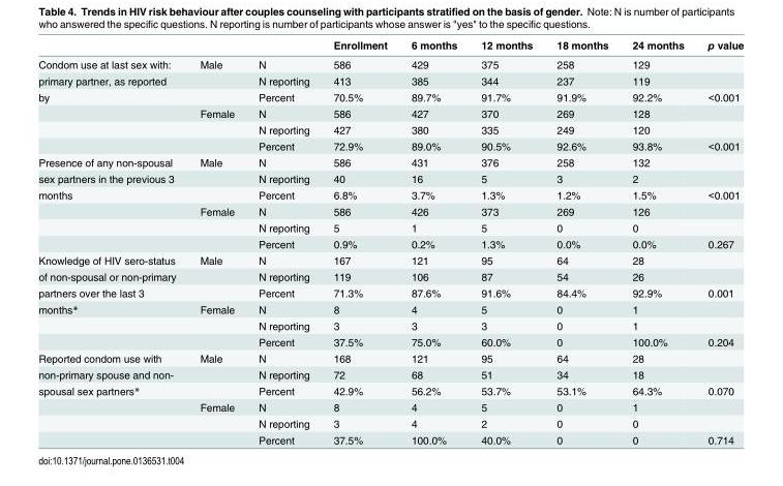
<table><thead><tr><td></td><td></td><td></td><td>Enrollment</td><td>6 months</td><td>12 months</td><td>18 months</td><td>24 months</td><td>p value</td></tr></thead><tbody><tr><td>Condom use at last sex with:</td><td>Male</td><td>N</td><td>586</td><td>429</td><td>375</td><td>258</td><td>129</td><td></td></tr><tr><td>primary partner, as reported</td><td></td><td>N reporting</td><td>413</td><td>385</td><td>344</td><td>237</td><td>119</td><td></td></tr><tr><td rowspan="4">by</td><td></td><td>Percent</td><td>70.5%</td><td>89.7%</td><td>91.7%</td><td>91.9%</td><td>92.2%</td><td>&lt;0.001</td></tr><tr><td>Female</td><td>N</td><td>586</td><td>427</td><td>370</td><td>269</td><td>128</td><td></td></tr><tr><td></td><td>N reporting</td><td>427</td><td>380</td><td>335</td><td>249</td><td>120</td><td></td></tr><tr><td></td><td>Percent</td><td>72.9%</td><td>89.0%</td><td>90.5%</td><td>92.6%</td><td>93.8%</td><td>&lt;0.001</td></tr><tr><td>Presence of any non-spousal</td><td>Male</td><td>N</td><td>586</td><td>431</td><td>376</td><td>258</td><td>132</td><td></td></tr><tr><td>sex partners in the previous 3</td><td></td><td>N reporting</td><td>40</td><td>16</td><td>5</td><td>3</td><td>2</td><td></td></tr><tr><td rowspan="4">months</td><td></td><td>Percent</td><td>6.8%</td><td>3.7%</td><td>1.3%</td><td>1.2%</td><td>1.5%</td><td>&lt;0.001</td></tr><tr><td>Female</td><td>N</td><td>586</td><td>426</td><td>373</td><td>269</td><td>126</td><td></td></tr><tr><td></td><td>N reporting</td><td>5</td><td>1</td><td>5</td><td>0</td><td>0</td><td></td></tr><tr><td></td><td>Percent</td><td>0.9%</td><td>0.2%</td><td>1.3%</td><td>0.0%</td><td>0.0%</td><td>0.267</td></tr><tr><td>Knowledge of HIV sero-status</td><td>Male</td><td>N</td><td>167</td><td>121</td><td>95</td><td>64</td><td>28</td><td></td></tr><tr><td>of non-spousal or non-primary</td><td></td><td>N reporting</td><td>119</td><td>106</td><td>87</td><td>54</td><td>26</td><td></td></tr><tr><td>partners over the last 3</td><td></td><td>Percent</td><td>71.3%</td><td>87.6%</td><td>91.6%</td><td>84.4%</td><td>92.9%</td><td>0.001</td></tr><tr><td rowspan="3">months*</td><td>Female</td><td>N</td><td>8</td><td>4</td><td>5</td><td>0</td><td>1</td><td></td></tr><tr><td></td><td>N reporting</td><td>3</td><td>3</td><td>3</td><td>0</td><td>1</td><td></td></tr><tr><td></td><td>Percent</td><td>37.5%</td><td>75.0%</td><td>60.0%</td><td>0</td><td>100.0%</td><td>0.204</td></tr><tr><td>Reported condom use with</td><td>Male</td><td>N</td><td>168</td><td>121</td><td>95</td><td>64</td><td>28</td><td></td></tr><tr><td>non-primary spouse and non-</td><td></td><td>N reporting</td><td>72</td><td>68</td><td>51</td><td>34</td><td>18</td><td></td></tr><tr><td rowspan="4">spousal sex partners*</td><td></td><td>Percent</td><td>42.9%</td><td>56.2%</td><td>53.7%</td><td>53.1%</td><td>64.3%</td><td>0.070</td></tr><tr><td>Female</td><td>N</td><td>8</td><td>4</td><td>5</td><td>0</td><td>1</td><td></td></tr><tr><td></td><td>N reporting</td><td>3</td><td>4</td><td>2</td><td>0</td><td>0</td><td></td></tr><tr><td></td><td>Percent</td><td>37.5%</td><td>100.0%</td><td>40.0%</td><td>0</td><td>0</td><td>0.714</td></tr></tbody></table>